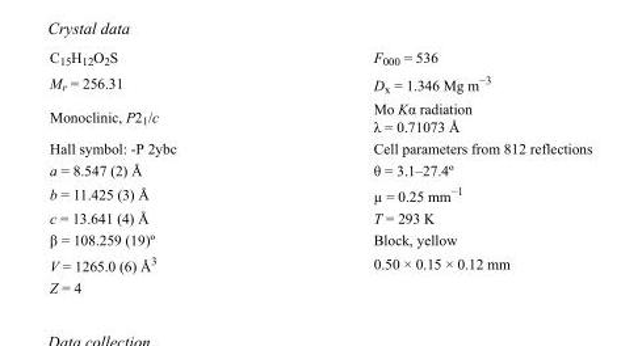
<table><tbody><tr><td>C<sub>15</sub>H<sub>12</sub>O<sub>2</sub>S</td><td>F000 = 536</td></tr><tr><td>M<sub>r</sub> = 256.31</td><td>D<sub>x</sub> = 1.346 Mg m<sup>−3</sup></td></tr><tr><td>Monoclinic, P2<sub>1</sub>/c</td><td>Mo Kα radiation λ = 0.71073 Å</td></tr><tr><td>Hall symbol: -P 2ybc</td><td>Cell parameters from 812 reflections</td></tr><tr><td>a = 8.547 (2) Å</td><td>θ = 3.1–27.4º</td></tr><tr><td>b = 11.425 (3) Å</td><td>µ = 0.25 mm<sup>−1</sup></td></tr><tr><td>c = 13.641 (4) Å</td><td>T = 293 K</td></tr><tr><td>β = 108.259 (19)º</td><td>Block, yellow</td></tr><tr><td>V = 1265.0 (6) Å<sup>3</sup></td><td>0.50 × 0.15 × 0.12 mm</td></tr><tr><td>Z = 4</td><td></td></tr></tbody></table>